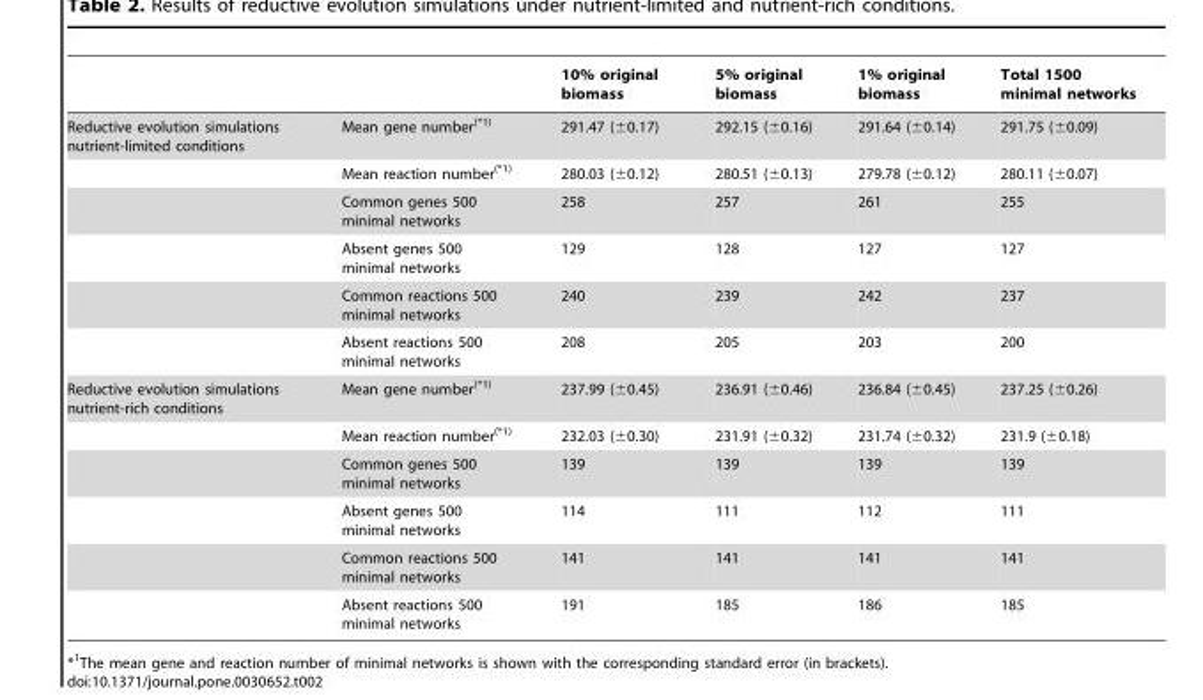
<table><thead><tr><td></td><td></td><td>10% original biomass</td><td>5% original biomass</td><td>1% original biomass</td><td>Total 1500 minimal networks</td></tr></thead><tbody><tr><td rowspan="6">Reductive evolution simulations nutrient-limited conditions</td><td>Mean gene number(*1)</td><td>291.47 (±0.17)</td><td>292.15 (±0.16)</td><td>291.64 (±0.14)</td><td>291.75 (±0.09)</td></tr><tr><td>Mean reaction number(*1)</td><td>280.03 (±0.12)</td><td>280.51 (±0.13)</td><td>279.78 (±0.12)</td><td>280.11 (±0.07)</td></tr><tr><td>Common genes 500 minimal networks</td><td>258</td><td>257</td><td>261</td><td>255</td></tr><tr><td>Absent genes 500 minimal networks</td><td>129</td><td>128</td><td>127</td><td>127</td></tr><tr><td>Common reactions 500 minimal networks</td><td>240</td><td>239</td><td>242</td><td>237</td></tr><tr><td>Absent reactions 500 minimal networks</td><td>208</td><td>205</td><td>203</td><td>200</td></tr><tr><td rowspan="6">Reductive evolution simulations nutrient-rich conditions</td><td>Mean gene number(*1)</td><td>237.99 (±0.45)</td><td>236.91 (±0.46)</td><td>236.84 (±0.45)</td><td>237.25 (±0.26)</td></tr><tr><td>Mean reaction number(*1)</td><td>232.03 (±0.30)</td><td>231.91 (±0.32)</td><td>231.74 (±0.32)</td><td>231.9 (±0.18)</td></tr><tr><td>Common genes 500 minimal networks</td><td>139</td><td>139</td><td>139</td><td>139</td></tr><tr><td>Absent genes 500 minimal networks</td><td>114</td><td>111</td><td>112</td><td>111</td></tr><tr><td>Common reactions 500 minimal networks</td><td>141</td><td>141</td><td>141</td><td>141</td></tr><tr><td>Absent reactions 500 minimal networks</td><td>191</td><td>185</td><td>186</td><td>185</td></tr></tbody></table>